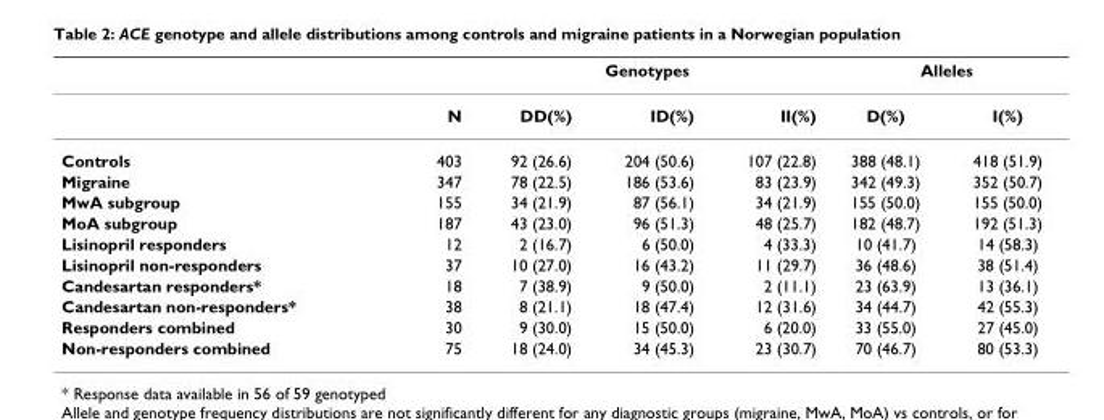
<table><thead><tr><td rowspan="2"></td><td rowspan="2">N</td><td colspan="3">Genotypes</td><td colspan="2">Alleles</td></tr><tr><td>DD(%)</td><td>ID(%)</td><td>II(%)</td><td>D(%)</td><td>I(%)</td></tr></thead><tbody><tr><td>Controls</td><td>403</td><td>92 (26.6)</td><td>204 (50.6)</td><td>107 (22.8)</td><td>388 (48.1)</td><td>418 (51.9)</td></tr><tr><td>Migraine</td><td>347</td><td>78 (22.5)</td><td>186 (53.6)</td><td>83 (23.9)</td><td>342 (49.3)</td><td>352 (50.7)</td></tr><tr><td>MwA subgroup</td><td>155</td><td>34 (21.9)</td><td>87 (56.1)</td><td>34 (21.9)</td><td>155 (50.0)</td><td>155 (50.0)</td></tr><tr><td>MoA subgroup</td><td>187</td><td>43 (23.0)</td><td>96 (51.3)</td><td>48 (25.7)</td><td>182 (48.7)</td><td>192 (51.3)</td></tr><tr><td>Lisinopril responders</td><td>12</td><td>2 (16.7)</td><td>6 (50.0)</td><td>4 (33.3)</td><td>10 (41.7)</td><td>14 (58.3)</td></tr><tr><td>Lisinopril non-responders</td><td>37</td><td>10 (27.0)</td><td>16 (43.2)</td><td>11 (29.7)</td><td>36 (48.6)</td><td>38 (51.4)</td></tr><tr><td>Candesartan responders*</td><td>18</td><td>7 (38.9)</td><td>9 (50.0)</td><td>2 (11.1)</td><td>23 (63.9)</td><td>13 (36.1)</td></tr><tr><td>Candesartan non-responders*</td><td>38</td><td>8 (21.1)</td><td>18 (47.4)</td><td>12 (31.6)</td><td>34 (44.7)</td><td>42 (55.3)</td></tr><tr><td>Responders combined</td><td>30</td><td>9 (30.0)</td><td>15 (50.0)</td><td>6 (20.0)</td><td>33 (55.0)</td><td>27 (45.0)</td></tr><tr><td>Non-responders combined</td><td>75</td><td>18 (24.0)</td><td>34 (45.3)</td><td>23 (30.7)</td><td>70 (46.7)</td><td>80 (53.3)</td></tr></tbody></table>